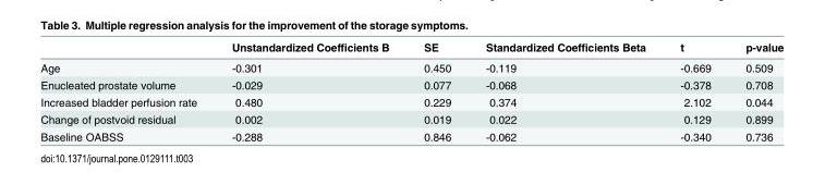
<table><thead><tr><td></td><td>Unstandardized Coefficients B</td><td>SE</td><td>Standardized Coefficients Beta</td><td>t</td><td>p-value</td></tr></thead><tbody><tr><td>Age</td><td>-0.301</td><td>0.450</td><td>-0.119</td><td>-0.669</td><td>0.509</td></tr><tr><td>Enucleated prostate volume</td><td>-0.029</td><td>0.077</td><td>-0.068</td><td>-0.378</td><td>0.708</td></tr><tr><td>Increased bladder perfusion rate</td><td>0.480</td><td>0.229</td><td>0.374</td><td>2.102</td><td>0.044</td></tr><tr><td>Change of postvoid residual</td><td>0.002</td><td>0.019</td><td>0.022</td><td>0.129</td><td>0.899</td></tr><tr><td>Baseline OABSS</td><td>-0.288</td><td>0.846</td><td>-0.062</td><td>-0.340</td><td>0.736</td></tr></tbody></table>